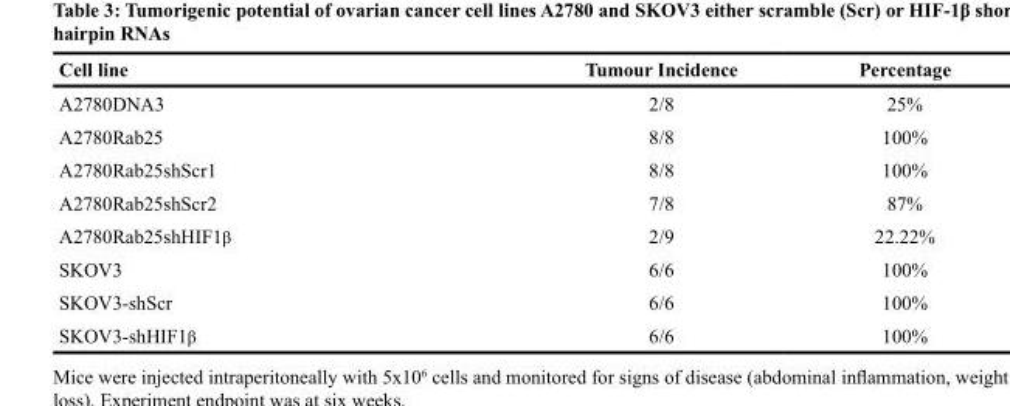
<table><thead><tr><td>Cell line</td><td>Tumour Incidence</td><td>Percentage</td></tr></thead><tbody><tr><td>A2780DNA3</td><td>2/8</td><td>25%</td></tr><tr><td>A2780Rab25</td><td>8/8</td><td>100%</td></tr><tr><td>A2780Rab25shScr1</td><td>8/8</td><td>100%</td></tr><tr><td>A2780Rab25shScr2</td><td>7/8</td><td>87%</td></tr><tr><td>A2780Rab25shHIF1β</td><td>2/9</td><td>22.22%</td></tr><tr><td>SKOV3</td><td>6/6</td><td>100%</td></tr><tr><td>SKOV3-shScr</td><td>6/6</td><td>100%</td></tr><tr><td>SKOV3-shHIF1β</td><td>6/6</td><td>100%</td></tr></tbody></table>